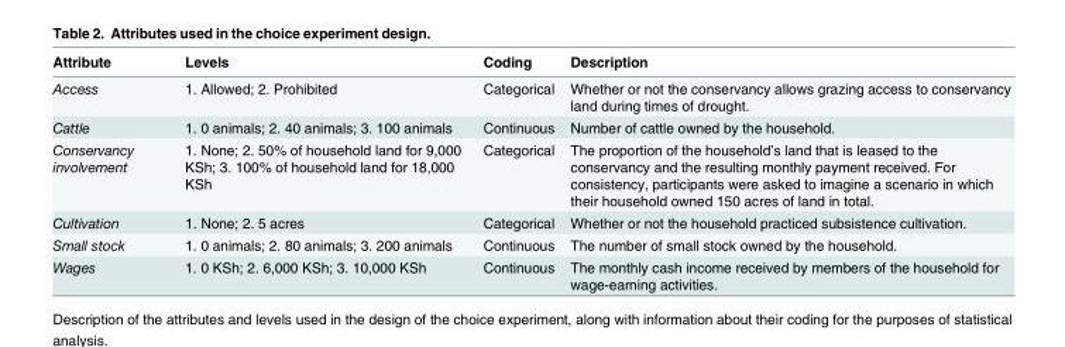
<table><thead><tr><td>Attribute</td><td>Levels</td><td>Coding</td><td>Description</td></tr></thead><tbody><tr><td>Access</td><td>1. Allowed; 2. Prohibited</td><td>Categorical</td><td>Whether or not the conservancy allows grazing access to conservancy land during times of drought.</td></tr><tr><td>Cattle</td><td>1. 0 animals; 2. 40 animals; 3. 100 animals</td><td>Continuous</td><td>Number of cattle owned by the household.</td></tr><tr><td>Conservancy involvement</td><td>1. None; 2. 50% of household land for 9,000 KSh; 3. 100% of household land for 18,000 KSh</td><td>Categorical</td><td>The proportion of the household’s land that is leased to the conservancy and the resulting monthly payment received. For consistency, participants were asked to imagine a scenario in which their household owned 150 acres of land in total.</td></tr><tr><td>Cultivation</td><td>1. None; 2. 5 acres</td><td>Categorical</td><td>Whether or not the household practiced subsistence cultivation.</td></tr><tr><td>Small stock</td><td>1. 0 animals; 2. 80 animals; 3. 200 animals</td><td>Continuous</td><td>The number of small stock owned by the household.</td></tr><tr><td>Wages</td><td>1. 0 KSh; 2. 6,000 KSh; 3. 10,000 KSh</td><td>Continuous</td><td>The monthly cash income received by members of the household for wage-earning activities.</td></tr></tbody></table>